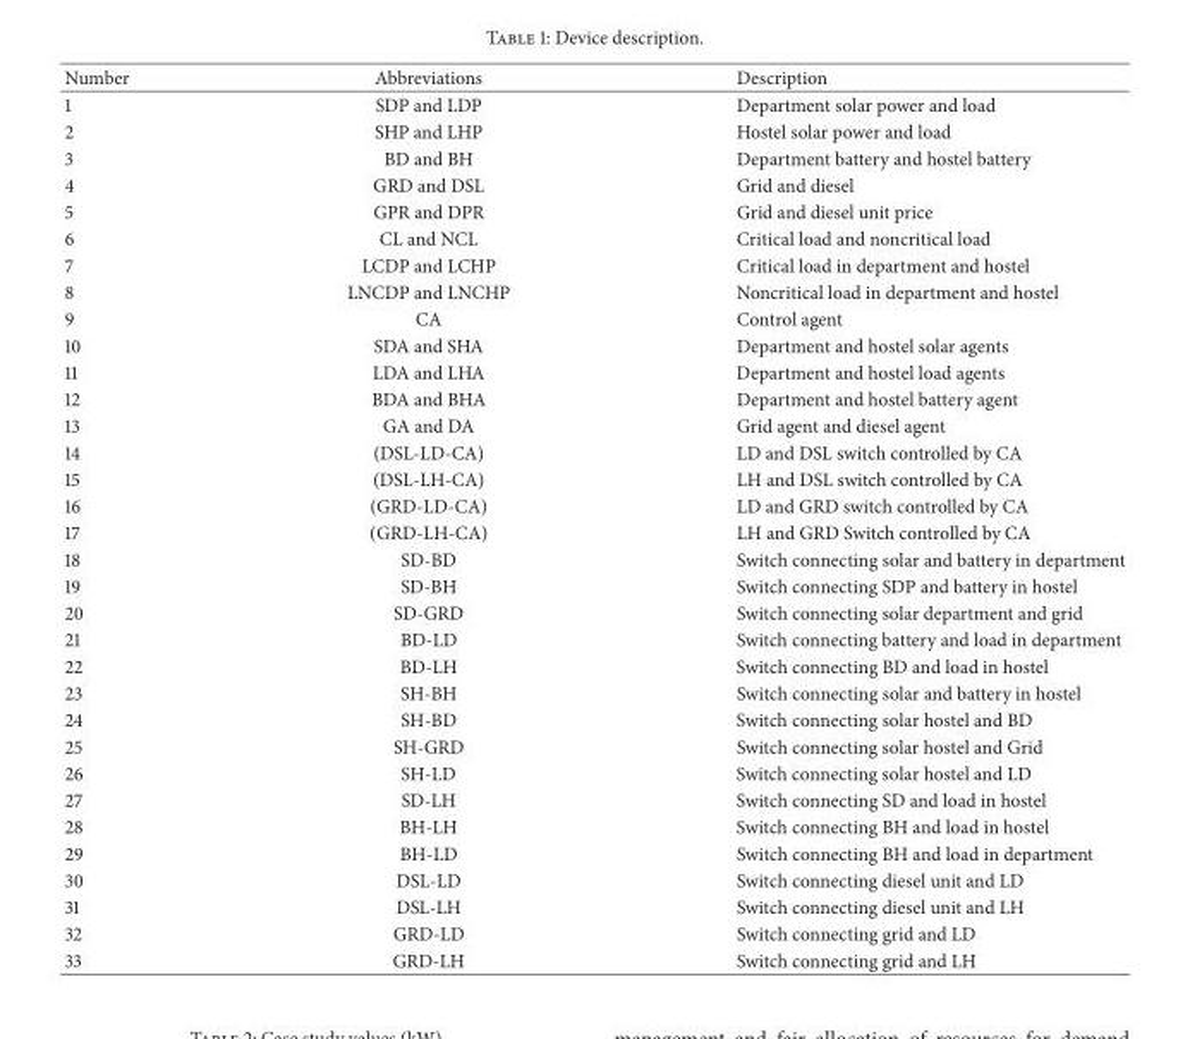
<table><thead><tr><td>Number</td><td>Abbreviations</td><td>Description</td></tr></thead><tbody><tr><td>1</td><td>SDP and LDP</td><td>Department solar power and load</td></tr><tr><td>2</td><td>SHP and LHP</td><td>Hostel solar power and load</td></tr><tr><td>3</td><td>BD and BH</td><td>Department battery and hostel battery</td></tr><tr><td>4</td><td>GRD and DSL</td><td>Grid and diesel</td></tr><tr><td>5</td><td>GPR and DPR</td><td>Grid and diesel unit price</td></tr><tr><td>6</td><td>CL and NCL</td><td>Critical load and noncritical load</td></tr><tr><td>7</td><td>LCDP and LCHP</td><td>Critical load in department and hostel</td></tr><tr><td>8</td><td>LNCDP and LNCHP</td><td>Noncritical load in department and hostel</td></tr><tr><td>9</td><td>CA</td><td>Control agent</td></tr><tr><td>10</td><td>SDA and SHA</td><td>Department and hostel solar agents</td></tr><tr><td>11</td><td>LDA and LHA</td><td>Department and hostel load agents</td></tr><tr><td>12</td><td>BDA and BHA</td><td>Department and hostel battery agent</td></tr><tr><td>13</td><td>GA and DA</td><td>Grid agent and diesel agent</td></tr><tr><td>14</td><td>(DSL-LD-CA)</td><td>LD and DSL switch controlled by CA</td></tr><tr><td>15</td><td>(DSL-LH-CA)</td><td>LH and DSL switch controlled by CA</td></tr><tr><td>16</td><td>(GRD-LD-CA)</td><td>LD and GRD switch controlled by CA</td></tr><tr><td>17</td><td>(GRD-LH-CA)</td><td>LH and GRD Switch controlled by CA</td></tr><tr><td>18</td><td>SD-BD</td><td>Switch connecting solar and battery in department</td></tr><tr><td>19</td><td>SD-BH</td><td>Switch connecting SDP and battery in hostel</td></tr><tr><td>20</td><td>SD-GRD</td><td>Switch connecting solar department and grid</td></tr><tr><td>21</td><td>BD-LD</td><td>Switch connecting battery and load in department</td></tr><tr><td>22</td><td>BD-LH</td><td>Switch connecting BD and load in hostel</td></tr><tr><td>23</td><td>SH-BH</td><td>Switch connecting solar and battery in hostel</td></tr><tr><td>24</td><td>SH-BD</td><td>Switch connecting solar hostel and BD</td></tr><tr><td>25</td><td>SH-GRD</td><td>Switch connecting solar hostel and Grid</td></tr><tr><td>26</td><td>SH-LD</td><td>Switch connecting solar hostel and LD</td></tr><tr><td>27</td><td>SD-LH</td><td>Switch connecting SD and load in hostel</td></tr><tr><td>28</td><td>BH-LH</td><td>Switch connecting BH and load in hostel</td></tr><tr><td>29</td><td>BH-LD</td><td>Switch connecting BH and load in department</td></tr><tr><td>30</td><td>DSL-LD</td><td>Switch connecting diesel unit and LD</td></tr><tr><td>31</td><td>DSL-LH</td><td>Switch connecting diesel unit and LH</td></tr><tr><td>32</td><td>GRD-LD</td><td>Switch connecting grid and LD</td></tr><tr><td>33</td><td>GRD-LH</td><td>Switch connecting grid and LH</td></tr></tbody></table>